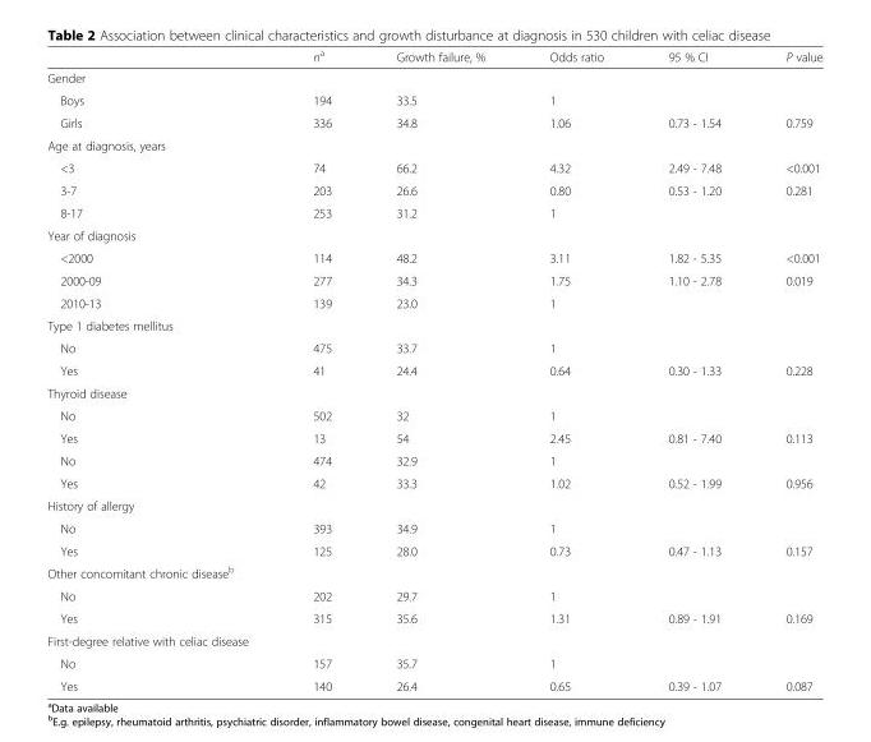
<table><thead><tr><td></td><td>n<sup>a</sup></td><td>Growth failure, %</td><td>Odds ratio</td><td>95 % CI</td><td>P value</td></tr></thead><tbody><tr><td colspan="6">Gender</td></tr><tr><td>Boys</td><td>194</td><td>33.5</td><td>1</td><td></td><td></td></tr><tr><td>Girls</td><td>336</td><td>34.8</td><td>1.06</td><td>0.73 - 1.54</td><td>0.759</td></tr><tr><td colspan="6">Age at diagnosis, years</td></tr><tr><td>&lt;3</td><td>74</td><td>66.2</td><td>4.32</td><td>2.49 - 7.48</td><td>&lt;0.001</td></tr><tr><td>3-7</td><td>203</td><td>26.6</td><td>0.80</td><td>0.53 - 1.20</td><td>0.281</td></tr><tr><td>8-17</td><td>253</td><td>31.2</td><td>1</td><td></td><td></td></tr><tr><td colspan="6">Year of diagnosis</td></tr><tr><td>&lt;2000</td><td>114</td><td>48.2</td><td>3.11</td><td>1.82 - 5.35</td><td>&lt;0.001</td></tr><tr><td>2000-09</td><td>277</td><td>34.3</td><td>1.75</td><td>1.10 - 2.78</td><td>0.019</td></tr><tr><td>2010-13</td><td>139</td><td>23.0</td><td>1</td><td></td><td></td></tr><tr><td colspan="6">Type 1 diabetes mellitus</td></tr><tr><td>No</td><td>475</td><td>33.7</td><td>1</td><td></td><td></td></tr><tr><td>Yes</td><td>41</td><td>24.4</td><td>0.64</td><td>0.30 - 1.33</td><td>0.228</td></tr><tr><td colspan="6">Thyroid disease</td></tr><tr><td>No</td><td>502</td><td>32</td><td>1</td><td></td><td></td></tr><tr><td>Yes</td><td>13</td><td>54</td><td>2.45</td><td>0.81 - 7.40</td><td>0.113</td></tr><tr><td>No</td><td>474</td><td>32.9</td><td>1</td><td></td><td></td></tr><tr><td>Yes</td><td>42</td><td>33.3</td><td>1.02</td><td>0.52 - 1.99</td><td>0.956</td></tr><tr><td colspan="6">History of allergy</td></tr><tr><td>No</td><td>393</td><td>34.9</td><td>1</td><td></td><td></td></tr><tr><td>Yes</td><td>125</td><td>28.0</td><td>0.73</td><td>0.47 - 1.13</td><td>0.157</td></tr><tr><td colspan="6">Other concomitant chronic disease<sup>b</sup></td></tr><tr><td>No</td><td>202</td><td>29.7</td><td>1</td><td></td><td></td></tr><tr><td>Yes</td><td>315</td><td>35.6</td><td>1.31</td><td>0.89 - 1.91</td><td>0.169</td></tr><tr><td colspan="6">First-degree relative with celiac disease</td></tr><tr><td>No</td><td>157</td><td>35.7</td><td>1</td><td></td><td></td></tr><tr><td>Yes</td><td>140</td><td>26.4</td><td>0.65</td><td>0.39 - 1.07</td><td>0.087</td></tr></tbody></table>